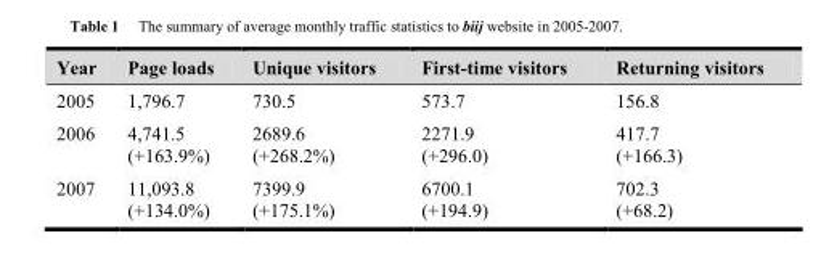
<table><thead><tr><td>Year</td><td>Page loads</td><td>Unique visitors</td><td>First-time visitors</td><td>Returning visitors</td></tr></thead><tbody><tr><td>2005</td><td>1,796.7</td><td>730.5</td><td>573.7</td><td>156.8</td></tr><tr><td>2006</td><td>4,741.5 (+163.9%)</td><td>2689.6 (+268.2%)</td><td>2271.9 (+296.0)</td><td>417.7 (+166.3)</td></tr><tr><td>2007</td><td>11,093.8 (+134.0%)</td><td>7399.9 (+175.1%)</td><td>6700.1 (+194.9)</td><td>702.3 (+68.2)</td></tr></tbody></table>